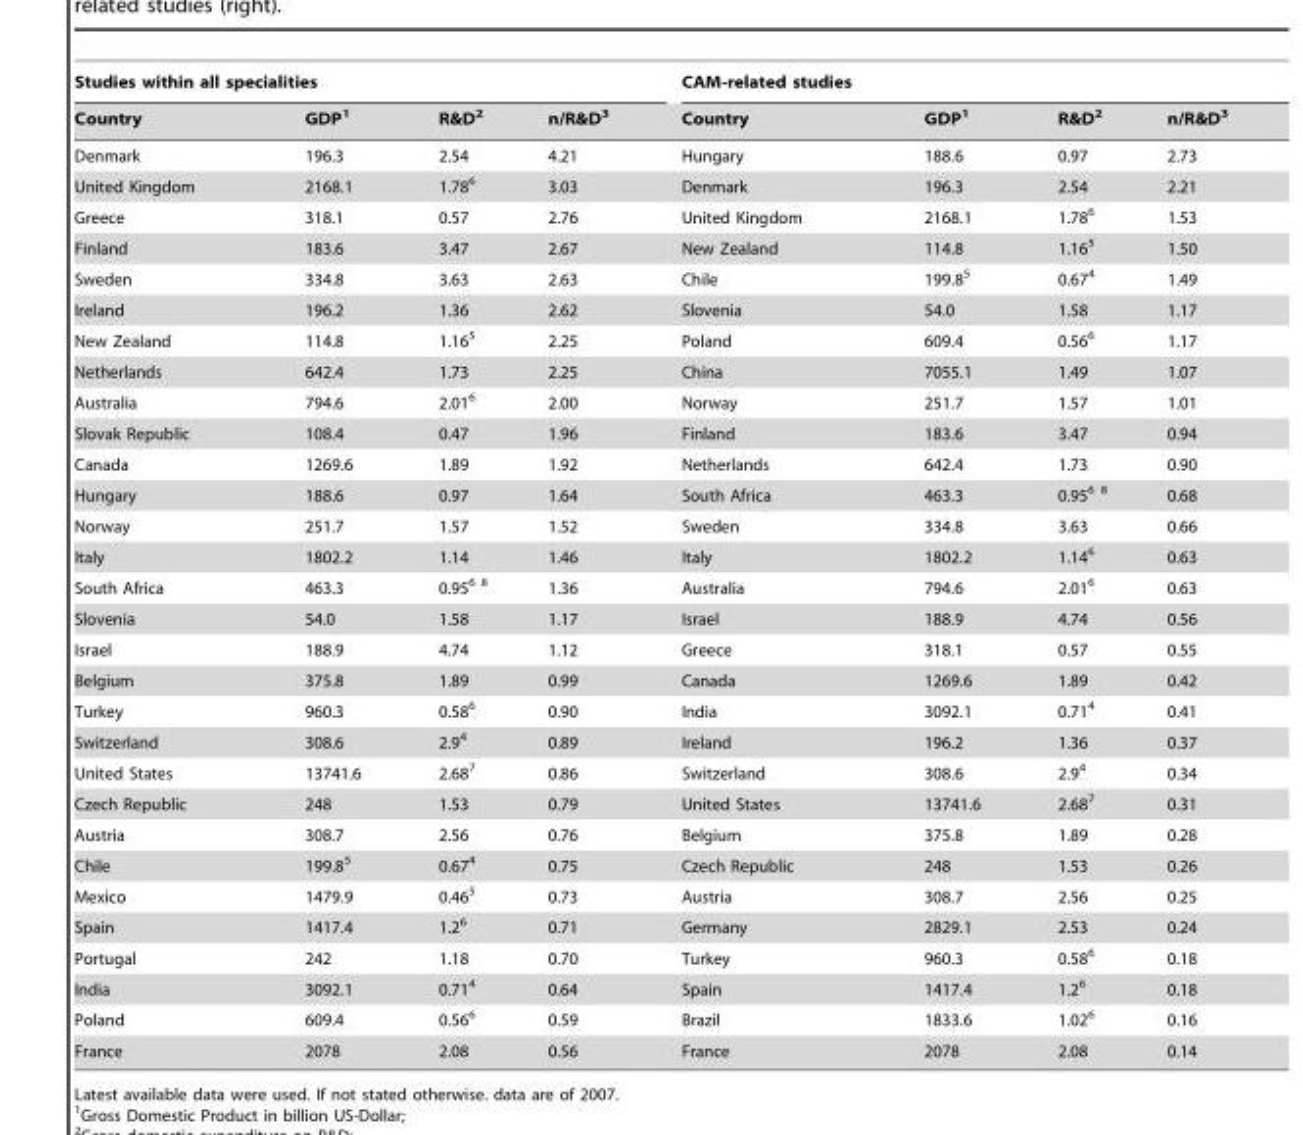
<table><thead><tr><td colspan="4">Studies within all specialities</td><td colspan="4">CAM-related studies</td></tr><tr><td>Country</td><td>GDP<sup>1</sup></td><td>R&amp;D<sup>2</sup></td><td>n/R&amp;D<sup>3</sup></td><td>Country</td><td>GDP<sup>1</sup></td><td>R&amp;D<sup>2</sup></td><td>n/R&amp;D<sup>3</sup></td></tr></thead><tbody><tr><td>Denmark</td><td>196.3</td><td>2.54</td><td>4.21</td><td>Hungary</td><td>188.6</td><td>0.97</td><td>2.73</td></tr><tr><td>United Kingdom</td><td>2168.1</td><td>1.78<sup>6</sup></td><td>3.03</td><td>Denmark</td><td>196.3</td><td>2.54</td><td>2.21</td></tr><tr><td>Greece</td><td>318.1</td><td>0.57</td><td>2.76</td><td>United Kingdom</td><td>2168.1</td><td>1.78<sup>6</sup></td><td>1.53</td></tr><tr><td>Finland</td><td>183.6</td><td>3.47</td><td>2.67</td><td>New Zealand</td><td>114.8</td><td>1.16<sup>5</sup></td><td>1.50</td></tr><tr><td>Sweden</td><td>334.8</td><td>3.63</td><td>2.63</td><td>Chile</td><td>199.8<sup>5</sup></td><td>0.67<sup>4</sup></td><td>1.49</td></tr><tr><td>Ireland</td><td>196.2</td><td>1.36</td><td>2.62</td><td>Slovenia</td><td>54.0</td><td>1.58</td><td>1.17</td></tr><tr><td>New Zealand</td><td>114.8</td><td>1.16<sup>5</sup></td><td>2.25</td><td>Poland</td><td>609.4</td><td>0.56<sup>6</sup></td><td>1.17</td></tr><tr><td>Netherlands</td><td>642.4</td><td>1.73</td><td>2.25</td><td>China</td><td>7055.1</td><td>1.49</td><td>1.07</td></tr><tr><td>Australia</td><td>794.6</td><td>2.01<sup>6</sup></td><td>2.00</td><td>Norway</td><td>251.7</td><td>1.57</td><td>1.01</td></tr><tr><td>Slovak Republic</td><td>108.4</td><td>0.47</td><td>1.96</td><td>Finland</td><td>183.6</td><td>3.47</td><td>0.94</td></tr><tr><td>Canada</td><td>1269.6</td><td>1.89</td><td>1.92</td><td>Netherlands</td><td>642.4</td><td>1.73</td><td>0.90</td></tr><tr><td>Hungary</td><td>188.6</td><td>0.97</td><td>1.64</td><td>South Africa</td><td>463.3</td><td>0.95<sup>6 8</sup></td><td>0.68</td></tr><tr><td>Norway</td><td>251.7</td><td>1.57</td><td>1.52</td><td>Sweden</td><td>334.8</td><td>3.63</td><td>0.66</td></tr><tr><td>Italy</td><td>1802.2</td><td>1.14</td><td>1.46</td><td>Italy</td><td>1802.2</td><td>1.14<sup>6</sup></td><td>0.63</td></tr><tr><td>South Africa</td><td>463.3</td><td>0.95<sup>6 8</sup></td><td>1.36</td><td>Australia</td><td>794.6</td><td>2.01<sup>6</sup></td><td>0.63</td></tr><tr><td>Slovenia</td><td>54.0</td><td>1.58</td><td>1.17</td><td>Israel</td><td>188.9</td><td>4.74</td><td>0.56</td></tr><tr><td>Israel</td><td>188.9</td><td>4.74</td><td>1.12</td><td>Greece</td><td>318.1</td><td>0.57</td><td>0.55</td></tr><tr><td>Belgium</td><td>375.8</td><td>1.89</td><td>0.99</td><td>Canada</td><td>1269.6</td><td>1.89</td><td>0.42</td></tr><tr><td>Turkey</td><td>960.3</td><td>0.58<sup>6</sup></td><td>0.90</td><td>India</td><td>3092.1</td><td>0.71<sup>4</sup></td><td>0.41</td></tr><tr><td>Switzerland</td><td>308.6</td><td>2.9<sup>4</sup></td><td>0.89</td><td>Ireland</td><td>196.2</td><td>1.36</td><td>0.37</td></tr><tr><td>United States</td><td>13741.6</td><td>2.68<sup>7</sup></td><td>0.86</td><td>Switzerland</td><td>308.6</td><td>2.9<sup>4</sup></td><td>0.34</td></tr><tr><td>Czech Republic</td><td>248</td><td>1.53</td><td>0.79</td><td>United States</td><td>13741.6</td><td>2.68<sup>7</sup></td><td>0.31</td></tr><tr><td>Austria</td><td>308.7</td><td>2.56</td><td>0.76</td><td>Belgium</td><td>375.8</td><td>1.89</td><td>0.28</td></tr><tr><td>Chile</td><td>199.8<sup>5</sup></td><td>0.67<sup>4</sup></td><td>0.75</td><td>Czech Republic</td><td>248</td><td>1.53</td><td>0.26</td></tr><tr><td>Mexico</td><td>1479.9</td><td>0.46<sup>5</sup></td><td>0.73</td><td>Austria</td><td>308.7</td><td>2.56</td><td>0.25</td></tr><tr><td>Spain</td><td>1417.4</td><td>1.2<sup>6</sup></td><td>0.71</td><td>Germany</td><td>2829.1</td><td>2.53</td><td>0.24</td></tr><tr><td>Portugal</td><td>242</td><td>1.18</td><td>0.70</td><td>Turkey</td><td>960.3</td><td>0.58<sup>6</sup></td><td>0.18</td></tr><tr><td>India</td><td>3092.1</td><td>0.71<sup>4</sup></td><td>0.64</td><td>Spain</td><td>1417.4</td><td>1.2<sup>6</sup></td><td>0.18</td></tr><tr><td>Poland</td><td>609.4</td><td>0.56<sup>6</sup></td><td>0.59</td><td>Brazil</td><td>1833.6</td><td>1.02<sup>6</sup></td><td>0.16</td></tr><tr><td>France</td><td>2078</td><td>2.08</td><td>0.56</td><td>France</td><td>2078</td><td>2.08</td><td>0.14</td></tr></tbody></table>